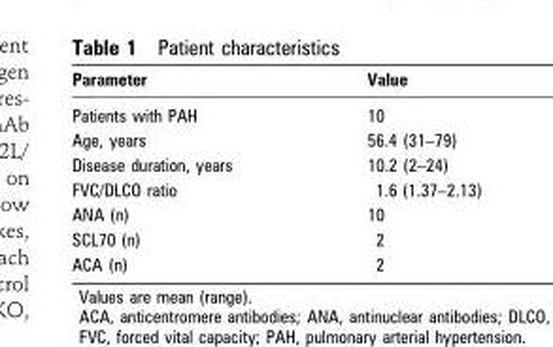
<table><thead><tr><td>Parameter</td><td>Value</td></tr></thead><tbody><tr><td>Patients with PAH</td><td>10</td></tr><tr><td>Age, years</td><td>56.4 (31–79)</td></tr><tr><td>Disease duration, years</td><td>10.2 (2–24)</td></tr><tr><td>FVC/DLCO ratio</td><td>1.6 (1.37–2.13)</td></tr><tr><td>ANA (n)</td><td>10</td></tr><tr><td>SCL70 (n)</td><td>2</td></tr><tr><td>ACA (n)</td><td>2</td></tr></tbody></table>